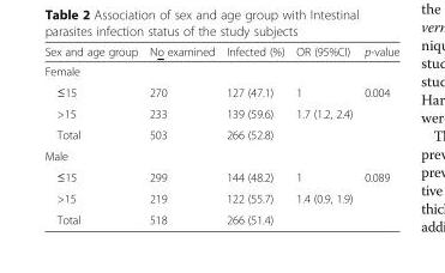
<table><thead><tr><td>Sex and age group</td><td>No examined</td><td>Infected (%)</td><td>OR (95%CI)</td><td>p-value</td></tr></thead><tbody><tr><td colspan="5">Female</td></tr><tr><td>≤15</td><td>270</td><td>127 (47.1)</td><td>1</td><td>0.004</td></tr><tr><td>&gt;15</td><td>233</td><td>139 (59.6)</td><td>1.7 (1.2, 2.4)</td><td></td></tr><tr><td>Total</td><td>503</td><td>266 (52.8)</td><td></td><td></td></tr><tr><td colspan="5">Male</td></tr><tr><td>≤15</td><td>299</td><td>144 (48.2)</td><td>1</td><td>0.089</td></tr><tr><td>&gt;15</td><td>219</td><td>122 (55.7)</td><td>1.4 (0.9, 1.9)</td><td></td></tr><tr><td>Total</td><td>518</td><td>266 (51.4)</td><td></td><td></td></tr></tbody></table>